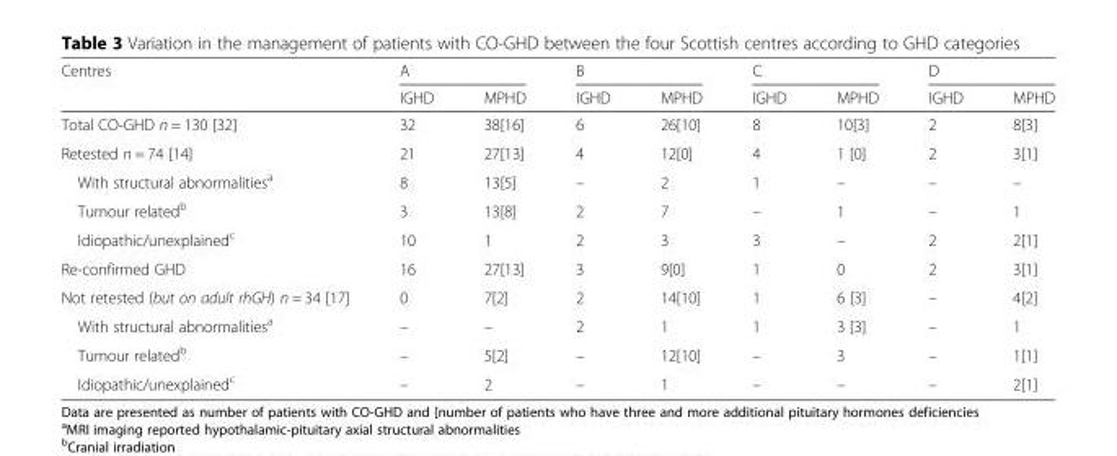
<table><thead><tr><td rowspan="2">Centres</td><td colspan="2">A</td><td colspan="2">B</td><td colspan="2">C</td><td colspan="2">D</td></tr><tr><td>IGHD</td><td>MPHD</td><td>IGHD</td><td>MPHD</td><td>IGHD</td><td>MPHD</td><td>IGHD</td><td>MPHD</td></tr></thead><tbody><tr><td>Total CO-GHD n = 130 [32]</td><td>32</td><td>38[16]</td><td>6</td><td>26[10]</td><td>8</td><td>10[3]</td><td>2</td><td>8[3]</td></tr><tr><td>Retested n = 74 [14]</td><td>21</td><td>27[13]</td><td>4</td><td>12[0]</td><td>4</td><td>1 [0]</td><td>2</td><td>3[1]</td></tr><tr><td>With structural abnormalities<sup>a</sup></td><td>8</td><td>13[5]</td><td>–</td><td>2</td><td>1</td><td>–</td><td>–</td><td>–</td></tr><tr><td>Tumour related<sup>b</sup></td><td>3</td><td>13[8]</td><td>2</td><td>7</td><td>–</td><td>1</td><td>–</td><td>1</td></tr><tr><td>Idiopathic/unexplained<sup>c</sup></td><td>10</td><td>1</td><td>2</td><td>3</td><td>3</td><td>–</td><td>2</td><td>2[1]</td></tr><tr><td>Re-confirmed GHD</td><td>16</td><td>27[13]</td><td>3</td><td>9[0]</td><td>1</td><td>0</td><td>2</td><td>3[1]</td></tr><tr><td>Not retested (but on adult rhGH) n = 34 [17]</td><td>0</td><td>7[2]</td><td>2</td><td>14[10]</td><td>1</td><td>6 [3]</td><td>–</td><td>4[2]</td></tr><tr><td>With structural abnormalities<sup>a</sup></td><td>–</td><td>–</td><td>2</td><td>1</td><td>1</td><td>3 [3]</td><td>–</td><td>1</td></tr><tr><td>Tumour related<sup>b</sup></td><td>–</td><td>5[2]</td><td>–</td><td>12[10]</td><td>–</td><td>3</td><td>–</td><td>1[1]</td></tr><tr><td>Idiopathic/unexplained<sup>c</sup></td><td>–</td><td>2</td><td>–</td><td>1</td><td>–</td><td>–</td><td>–</td><td>2[1]</td></tr></tbody></table>